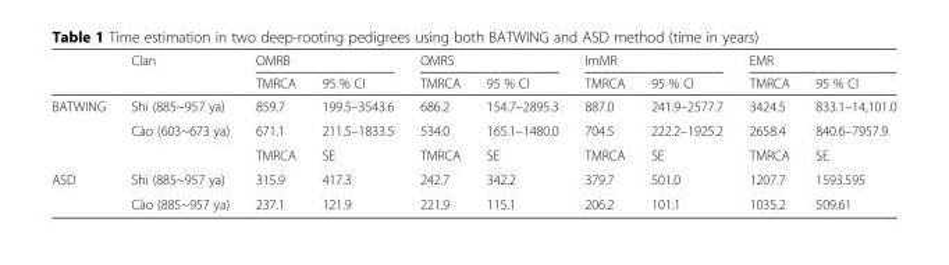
<table><thead><tr><td rowspan="2"></td><td rowspan="2">Clan</td><td colspan="2">OMRB</td><td colspan="2">OMRS</td><td colspan="2">lmMR</td><td colspan="2">EMR</td></tr><tr><td>TMRCA</td><td>95 % CI</td><td>TMRCA</td><td>95 % CI</td><td>TMRCA</td><td>95 % CI</td><td>TMRCA</td><td>95 % CI</td></tr></thead><tbody><tr><td rowspan="3">BATWING</td><td>Shi (885~957 ya)</td><td>859.7</td><td>199.5–3543.6</td><td>686.2</td><td>154.7–2895.3</td><td>887.0</td><td>241.9–2577.7</td><td>3424.5</td><td>833.1–14,101.0</td></tr><tr><td>Cào (603~673 ya)</td><td>671.1</td><td>211.5–1833.5</td><td>534.0</td><td>165.1–1480.0</td><td>704.5</td><td>222.2–1925.2</td><td>2658.4</td><td>840.6–7957.9</td></tr><tr><td></td><td>TMRCA</td><td>SE</td><td>TMRCA</td><td>SE</td><td>TMRCA</td><td>SE</td><td>TMRCA</td><td>SE</td></tr><tr><td rowspan="2">ASD</td><td>Shi (885~957 ya)</td><td>315.9</td><td>417.3</td><td>242.7</td><td>342.2</td><td>379.7</td><td>501.0</td><td>1207.7</td><td>1593.595</td></tr><tr><td>Cào (885~957 ya)</td><td>237.1</td><td>121.9</td><td>221.9</td><td>115.1</td><td>206.2</td><td>101.1</td><td>1035.2</td><td>509.61</td></tr></tbody></table>